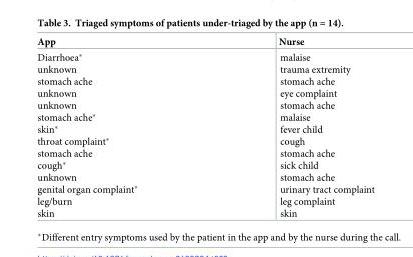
<table><thead><tr><td>App</td><td>Nurse</td></tr></thead><tbody><tr><td>Diarrhoea* unknown stomach ache unknown unknown stomach ache* skin* throat complaint* stomach ache cough* unknown genital organ complaint* leg/burn skin</td><td>malaise trauma extremity stomach ache eye complaint stomach ache malaise fever child cough stomach ache sick child stomach ache urinary tract complaint leg complaint skin</td></tr></tbody></table>